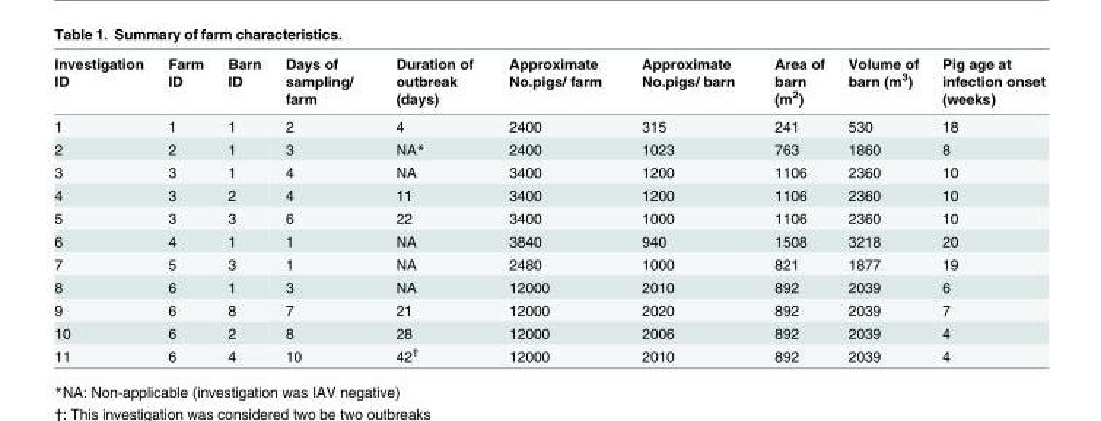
<table><thead><tr><td>Investigation ID</td><td>Farm ID</td><td>Barn ID</td><td>Days of sampling/ farm</td><td>Duration of outbreak (days)</td><td>Approximate No.pigs/ farm</td><td>Approximate No.pigs/ barn</td><td>Area of barn (m<sup>2</sup>)</td><td>Volume of barn (m<sup>3</sup>)</td><td>Pig age at infection onset (weeks)</td></tr></thead><tbody><tr><td>1</td><td>1</td><td>1</td><td>2</td><td>4</td><td>2400</td><td>315</td><td>241</td><td>530</td><td>18</td></tr><tr><td>2</td><td>2</td><td>1</td><td>3</td><td>NA*</td><td>2400</td><td>1023</td><td>763</td><td>1860</td><td>8</td></tr><tr><td>3</td><td>3</td><td>1</td><td>4</td><td>NA</td><td>3400</td><td>1200</td><td>1106</td><td>2360</td><td>10</td></tr><tr><td>4</td><td>3</td><td>2</td><td>4</td><td>11</td><td>3400</td><td>1200</td><td>1106</td><td>2360</td><td>10</td></tr><tr><td>5</td><td>3</td><td>3</td><td>6</td><td>22</td><td>3400</td><td>1000</td><td>1106</td><td>2360</td><td>10</td></tr><tr><td>6</td><td>4</td><td>1</td><td>1</td><td>NA</td><td>3840</td><td>940</td><td>1508</td><td>3218</td><td>20</td></tr><tr><td>7</td><td>5</td><td>3</td><td>1</td><td>NA</td><td>2480</td><td>1000</td><td>821</td><td>1877</td><td>19</td></tr><tr><td>8</td><td>6</td><td>1</td><td>3</td><td>NA</td><td>12000</td><td>2010</td><td>892</td><td>2039</td><td>6</td></tr><tr><td>9</td><td>6</td><td>8</td><td>7</td><td>21</td><td>12000</td><td>2020</td><td>892</td><td>2039</td><td>7</td></tr><tr><td>10</td><td>6</td><td>2</td><td>8</td><td>28</td><td>12000</td><td>2006</td><td>892</td><td>2039</td><td>4</td></tr><tr><td>11</td><td>6</td><td>4</td><td>10</td><td>42<sup>†</sup></td><td>12000</td><td>2010</td><td>892</td><td>2039</td><td>4</td></tr></tbody></table>